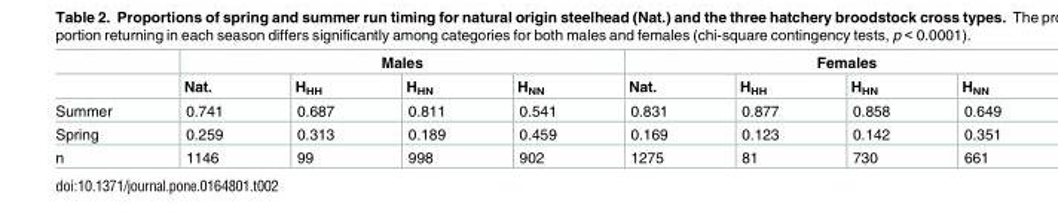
<table><thead><tr><td rowspan="2"></td><td colspan="4">Males</td><td colspan="4">Females</td></tr><tr><td>Nat.</td><td>H<sub>HH</sub></td><td>H<sub>HN</sub></td><td>H<sub>NN</sub></td><td>Nat.</td><td>H<sub>HH</sub></td><td>H<sub>HN</sub></td><td>H<sub>NN</sub></td></tr></thead><tbody><tr><td>Summer</td><td>0.741</td><td>0.687</td><td>0.811</td><td>0.541</td><td>0.831</td><td>0.877</td><td>0.858</td><td>0.649</td></tr><tr><td>Spring</td><td>0.259</td><td>0.313</td><td>0.189</td><td>0.459</td><td>0.169</td><td>0.123</td><td>0.142</td><td>0.351</td></tr><tr><td>n</td><td>1146</td><td>99</td><td>998</td><td>902</td><td>1275</td><td>81</td><td>730</td><td>661</td></tr></tbody></table>